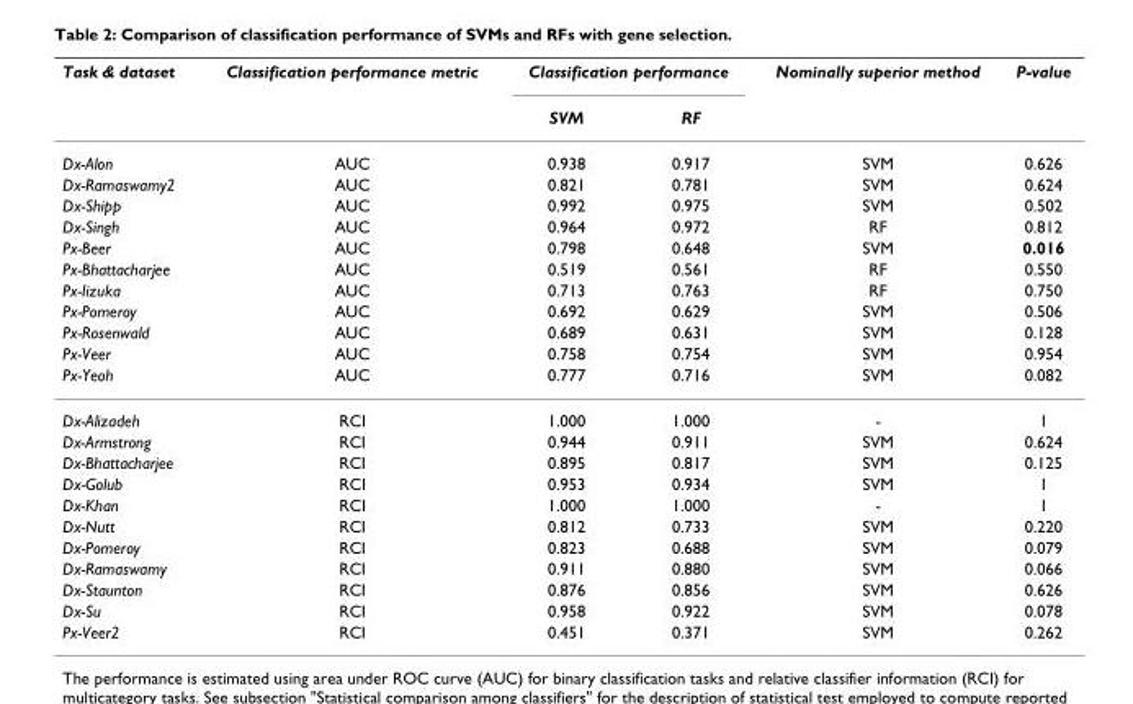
<table><thead><tr><td rowspan="2">Task &amp; dataset</td><td rowspan="2">Classification performance metric</td><td colspan="2">Classification performance</td><td rowspan="2">Nominally superior method</td><td rowspan="2">P-value</td></tr><tr><td>SVM</td><td>RF</td></tr></thead><tbody><tr><td>Dx-Alon</td><td>AUC</td><td>0.938</td><td>0.917</td><td>SVM</td><td>0.626</td></tr><tr><td>Dx-Ramaswamy2</td><td>AUC</td><td>0.821</td><td>0.781</td><td>SVM</td><td>0.624</td></tr><tr><td>Dx-Shipp</td><td>AUC</td><td>0.992</td><td>0.975</td><td>SVM</td><td>0.502</td></tr><tr><td>Dx-Singh</td><td>AUC</td><td>0.964</td><td>0.972</td><td>RF</td><td>0.812</td></tr><tr><td>Px-Beer</td><td>AUC</td><td>0.798</td><td>0.648</td><td>SVM</td><td>0.016</td></tr><tr><td>Px-Bhattacharjee</td><td>AUC</td><td>0.519</td><td>0.561</td><td>RF</td><td>0.550</td></tr><tr><td>Px-Iizuka</td><td>AUC</td><td>0.713</td><td>0.763</td><td>RF</td><td>0.750</td></tr><tr><td>Px-Pomeroy</td><td>AUC</td><td>0.692</td><td>0.629</td><td>SVM</td><td>0.506</td></tr><tr><td>Px-Rosenwald</td><td>AUC</td><td>0.689</td><td>0.631</td><td>SVM</td><td>0.128</td></tr><tr><td>Px-Veer</td><td>AUC</td><td>0.758</td><td>0.754</td><td>SVM</td><td>0.954</td></tr><tr><td>Px-Yeoh</td><td>AUC</td><td>0.777</td><td>0.716</td><td>SVM</td><td>0.082</td></tr><tr><td>Dx-Alizadeh</td><td>RCI</td><td>1.000</td><td>1.000</td><td>-</td><td>1</td></tr><tr><td>Dx-Armstrong</td><td>RCI</td><td>0.944</td><td>0.911</td><td>SVM</td><td>0.624</td></tr><tr><td>Dx-Bhattacharjee</td><td>RCI</td><td>0.895</td><td>0.817</td><td>SVM</td><td>0.125</td></tr><tr><td>Dx-Golub</td><td>RCI</td><td>0.953</td><td>0.934</td><td>SVM</td><td>1</td></tr><tr><td>Dx-Khan</td><td>RCI</td><td>1.000</td><td>1.000</td><td>-</td><td>1</td></tr><tr><td>Dx-Nutt</td><td>RCI</td><td>0.812</td><td>0.733</td><td>SVM</td><td>0.220</td></tr><tr><td>Dx-Pomeroy</td><td>RCI</td><td>0.823</td><td>0.688</td><td>SVM</td><td>0.079</td></tr><tr><td>Dx-Ramaswamy</td><td>RCI</td><td>0.911</td><td>0.880</td><td>SVM</td><td>0.066</td></tr><tr><td>Dx-Staunton</td><td>RCI</td><td>0.876</td><td>0.856</td><td>SVM</td><td>0.626</td></tr><tr><td>Dx-Su</td><td>RCI</td><td>0.958</td><td>0.922</td><td>SVM</td><td>0.078</td></tr><tr><td>Px-Veer2</td><td>RCI</td><td>0.451</td><td>0.371</td><td>SVM</td><td>0.262</td></tr></tbody></table>